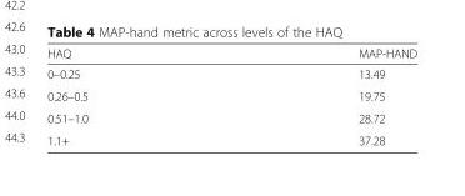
<table><thead><tr><td>HAQ</td><td>MAP-HAND</td></tr></thead><tbody><tr><td>0–0.25</td><td>13.49</td></tr><tr><td>0.26–0.5</td><td>19.75</td></tr><tr><td>0.51–1.0</td><td>28.72</td></tr><tr><td>1.1+</td><td>37.28</td></tr></tbody></table>